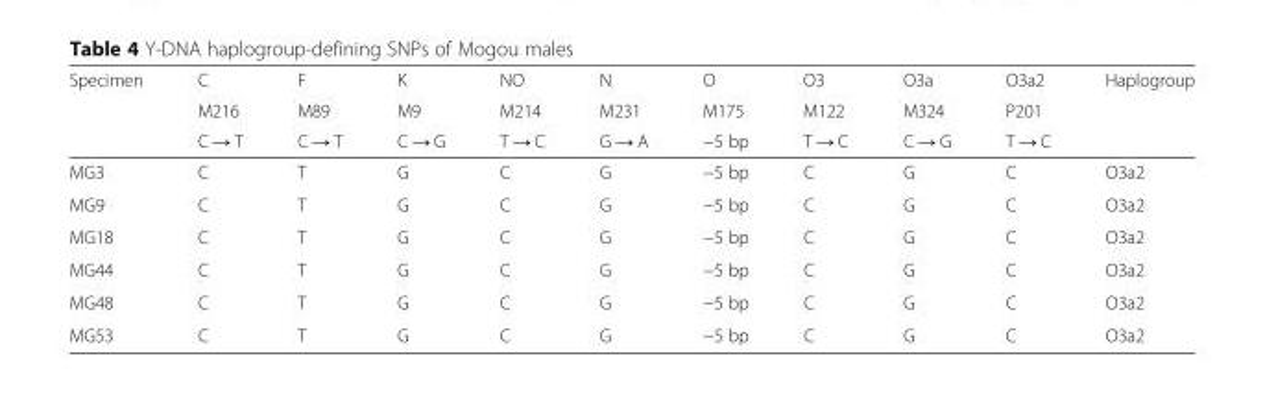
<table><thead><tr><td rowspan="3">Specimen</td><td rowspan="3">C M216 C → T</td><td rowspan="3">F M89 C → T</td><td rowspan="3">K M9 C → G</td><td rowspan="3">NO M214 T → C</td><td rowspan="3">N M231 G → A</td><td rowspan="3">O M175 −5 bp</td><td rowspan="3">O3 M122 T → C</td><td rowspan="3">O3a M324 C → G</td><td rowspan="3">O3a2 P201 T → C</td><td rowspan="3">Haplogroup</td></tr><tr></tr><tr></tr></thead><tbody><tr><td>MG3</td><td>C</td><td>T</td><td>G</td><td>C</td><td>G</td><td>−5 bp</td><td>C</td><td>G</td><td>C</td><td>O3a2</td></tr><tr><td>MG9</td><td>C</td><td>T</td><td>G</td><td>C</td><td>G</td><td>−5 bp</td><td>C</td><td>G</td><td>C</td><td>O3a2</td></tr><tr><td>MG18</td><td>C</td><td>T</td><td>G</td><td>C</td><td>G</td><td>−5 bp</td><td>C</td><td>G</td><td>C</td><td>O3a2</td></tr><tr><td>MG44</td><td>C</td><td>T</td><td>G</td><td>C</td><td>G</td><td>−5 bp</td><td>C</td><td>G</td><td>C</td><td>O3a2</td></tr><tr><td>MG48</td><td>C</td><td>T</td><td>G</td><td>C</td><td>G</td><td>−5 bp</td><td>C</td><td>G</td><td>C</td><td>O3a2</td></tr><tr><td>MG53</td><td>C</td><td>T</td><td>G</td><td>C</td><td>G</td><td>−5 bp</td><td>C</td><td>G</td><td>C</td><td>O3a2</td></tr></tbody></table>